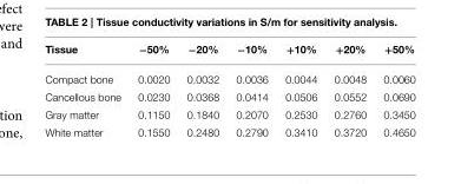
<table><thead><tr><td>Tissue</td><td>−50%</td><td>−20%</td><td>−10%</td><td>+10%</td><td>+20%</td><td>+50%</td></tr></thead><tbody><tr><td>Compact bone</td><td>0.0020</td><td>0.0032</td><td>0.0036</td><td>0.0044</td><td>0.0048</td><td>0.0060</td></tr><tr><td>Cancellous bone</td><td>0.0230</td><td>0.0368</td><td>0.0414</td><td>0.0506</td><td>0.0552</td><td>0.0690</td></tr><tr><td>Gray matter</td><td>0.1150</td><td>0.1840</td><td>0.2070</td><td>0.2530</td><td>0.2760</td><td>0.3450</td></tr><tr><td>White matter</td><td>0.1550</td><td>0.2480</td><td>0.2790</td><td>0.3410</td><td>0.3720</td><td>0.4650</td></tr></tbody></table>